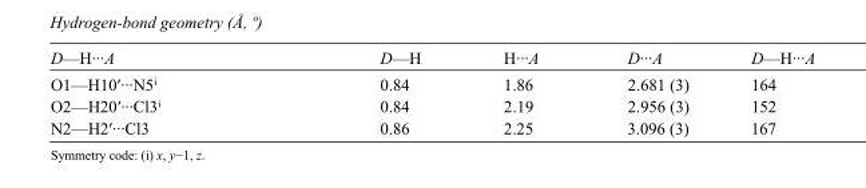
<table><tbody><tr><td>D—H···A</td><td>D—H</td><td>H···A</td><td>D···A</td><td>D—H···A</td></tr><tr><td>O1—H10′···N5<sup>i</sup></td><td>0.84</td><td>1.86</td><td>2.681 (3)</td><td>164</td></tr><tr><td>O2—H20′···Cl3<sup>i</sup></td><td>0.84</td><td>2.19</td><td>2.956 (3)</td><td>152</td></tr><tr><td>N2—H2′···Cl3</td><td>0.86</td><td>2.25</td><td>3.096 (3)</td><td>167</td></tr></tbody></table>